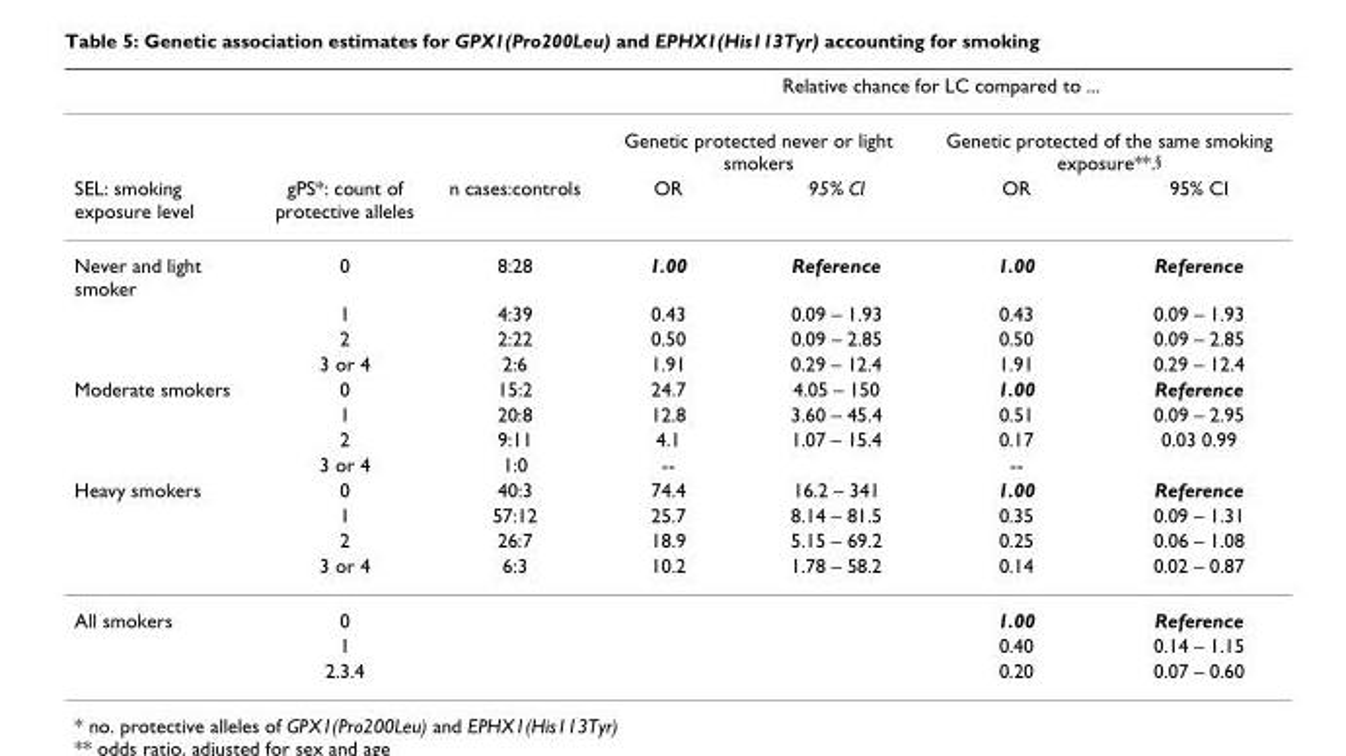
<table><thead><tr><td rowspan="3">SEL: smoking exposure level</td><td rowspan="3">gPS*: count of protective alleles</td><td rowspan="3">n cases:controls</td><td colspan="4">Relative chance for LC compared to ...</td></tr><tr><td colspan="2">Genetic protected never or light smokers</td><td colspan="2">Genetic protected of the same smoking exposure**.<sup>§</sup></td></tr><tr><td>OR</td><td>95% CI</td><td>OR</td><td>95% CI</td></tr></thead><tbody><tr><td rowspan="4">Never and light smoker</td><td>0</td><td>8:28</td><td>1.00</td><td>Reference</td><td>1.00</td><td>Reference</td></tr><tr><td>1</td><td>4:39</td><td>0.43</td><td>0.09 – 1.93</td><td>0.43</td><td>0.09 – 1.93</td></tr><tr><td>2</td><td>2:22</td><td>0.50</td><td>0.09 – 2.85</td><td>0.50</td><td>0.09 – 2.85</td></tr><tr><td>3 or 4</td><td>2:6</td><td>1.91</td><td>0.29 – 12.4</td><td>1.91</td><td>0.29 – 12.4</td></tr><tr><td rowspan="4">Moderate smokers</td><td>0</td><td>15:2</td><td>24.7</td><td>4.05 – 150</td><td>1.00</td><td>Reference</td></tr><tr><td>1</td><td>20:8</td><td>12.8</td><td>3.60 – 45.4</td><td>0.51</td><td>0.09 – 2.95</td></tr><tr><td>2</td><td>9:11</td><td>4.1</td><td>1.07 – 15.4</td><td>0.17</td><td>0.03 0.99</td></tr><tr><td>3 or 4</td><td>1:0</td><td>--</td><td></td><td>--</td><td></td></tr><tr><td rowspan="4">Heavy smokers</td><td>0</td><td>40:3</td><td>74.4</td><td>16.2 – 341</td><td>1.00</td><td>Reference</td></tr><tr><td>1</td><td>57:12</td><td>25.7</td><td>8.14 – 81.5</td><td>0.35</td><td>0.09 – 1.31</td></tr><tr><td>2</td><td>26:7</td><td>18.9</td><td>5.15 – 69.2</td><td>0.25</td><td>0.06 – 1.08</td></tr><tr><td>3 or 4</td><td>6:3</td><td>10.2</td><td>1.78 – 58.2</td><td>0.14</td><td>0.02 – 0.87</td></tr><tr><td rowspan="3">All smokers</td><td>0</td><td></td><td></td><td></td><td>1.00</td><td>Reference</td></tr><tr><td>1</td><td></td><td></td><td></td><td>0.40</td><td>0.14 – 1.15</td></tr><tr><td>2.3.4</td><td></td><td></td><td></td><td>0.20</td><td>0.07 – 0.60</td></tr></tbody></table>